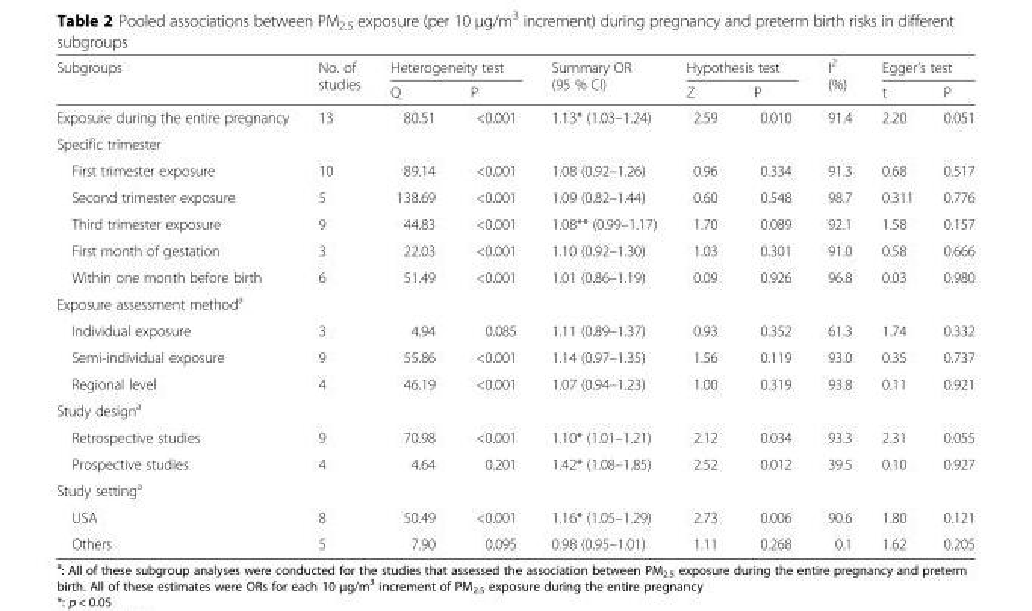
<table><thead><tr><td rowspan="2">Subgroups</td><td rowspan="2">No. of studies</td><td colspan="2">Heterogeneity test</td><td rowspan="2">Summary OR (95 % CI)</td><td colspan="2">Hypothesis test</td><td rowspan="2">I<sup>2</sup> (%)</td><td colspan="2">Egger’s test</td></tr><tr><td>Q</td><td>P</td><td>Z</td><td>P</td><td>t</td><td>P</td></tr></thead><tbody><tr><td>Exposure during the entire pregnancy</td><td>13</td><td>80.51</td><td>&lt;0.001</td><td>1.13* (1.03–1.24)</td><td>2.59</td><td>0.010</td><td>91.4</td><td>2.20</td><td>0.051</td></tr><tr><td colspan="10">Specific trimester</td></tr><tr><td>First trimester exposure</td><td>10</td><td>89.14</td><td>&lt;0.001</td><td>1.08 (0.92–1.26)</td><td>0.96</td><td>0.334</td><td>91.3</td><td>0.68</td><td>0.517</td></tr><tr><td>Second trimester exposure</td><td>5</td><td>138.69</td><td>&lt;0.001</td><td>1.09 (0.82–1.44)</td><td>0.60</td><td>0.548</td><td>98.7</td><td>0.311</td><td>0.776</td></tr><tr><td>Third trimester exposure</td><td>9</td><td>44.83</td><td>&lt;0.001</td><td>1.08** (0.99–1.17)</td><td>1.70</td><td>0.089</td><td>92.1</td><td>1.58</td><td>0.157</td></tr><tr><td>First month of gestation</td><td>3</td><td>22.03</td><td>&lt;0.001</td><td>1.10 (0.92–1.30)</td><td>1.03</td><td>0.301</td><td>91.0</td><td>0.58</td><td>0.666</td></tr><tr><td>Within one month before birth</td><td>6</td><td>51.49</td><td>&lt;0.001</td><td>1.01 (0.86–1.19)</td><td>0.09</td><td>0.926</td><td>96.8</td><td>0.03</td><td>0.980</td></tr><tr><td colspan="10">Exposure assessment method<sup>a</sup></td></tr><tr><td>Individual exposure</td><td>3</td><td>4.94</td><td>0.085</td><td>1.11 (0.89–1.37)</td><td>0.93</td><td>0.352</td><td>61.3</td><td>1.74</td><td>0.332</td></tr><tr><td>Semi-individual exposure</td><td>9</td><td>55.86</td><td>&lt;0.001</td><td>1.14 (0.97–1.35)</td><td>1.56</td><td>0.119</td><td>93.0</td><td>0.35</td><td>0.737</td></tr><tr><td>Regional level</td><td>4</td><td>46.19</td><td>&lt;0.001</td><td>1.07 (0.94–1.23)</td><td>1.00</td><td>0.319</td><td>93.8</td><td>0.11</td><td>0.921</td></tr><tr><td colspan="10">Study design<sup>a</sup></td></tr><tr><td>Retrospective studies</td><td>9</td><td>70.98</td><td>&lt;0.001</td><td>1.10* (1.01–1.21)</td><td>2.12</td><td>0.034</td><td>93.3</td><td>2.31</td><td>0.055</td></tr><tr><td>Prospective studies</td><td>4</td><td>4.64</td><td>0.201</td><td>1.42* (1.08–1.85)</td><td>2.52</td><td>0.012</td><td>39.5</td><td>0.10</td><td>0.927</td></tr><tr><td colspan="10">Study setting<sup>a</sup></td></tr><tr><td>USA</td><td>8</td><td>50.49</td><td>&lt;0.001</td><td>1.16* (1.05–1.29)</td><td>2.73</td><td>0.006</td><td>90.6</td><td>1.80</td><td>0.121</td></tr><tr><td>Others</td><td>5</td><td>7.90</td><td>0.095</td><td>0.98 (0.95–1.01)</td><td>1.11</td><td>0.268</td><td>0.1</td><td>1.62</td><td>0.205</td></tr></tbody></table>